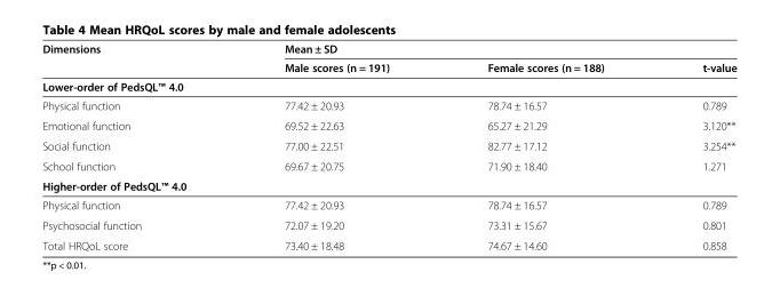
<table><thead><tr><td rowspan="2">Dimensions</td><td colspan="3">Mean ± SD</td></tr><tr><td>Male scores (n = 191)</td><td>Female scores (n = 188)</td><td>t-value</td></tr></thead><tbody><tr><td colspan="4">Lower-order of PedsQL™ 4.0</td></tr><tr><td>Physical function</td><td>77.42 ± 20.93</td><td>78.74 ± 16.57</td><td>0.789</td></tr><tr><td>Emotional function</td><td>69.52 ± 22.63</td><td>65.27 ± 21.29</td><td>3.120**</td></tr><tr><td>Social function</td><td>77.00 ± 22.51</td><td>82.77 ± 17.12</td><td>3.254**</td></tr><tr><td>School function</td><td>69.67 ± 20.75</td><td>71.90 ± 18.40</td><td>1.271</td></tr><tr><td colspan="4">Higher-order of PedsQL™ 4.0</td></tr><tr><td>Physical function</td><td>77.42 ± 20.93</td><td>78.74 ± 16.57</td><td>0.789</td></tr><tr><td>Psychosocial function</td><td>72.07 ± 19.20</td><td>73.31 ± 15.67</td><td>0.801</td></tr><tr><td>Total HRQoL score</td><td>73.40 ± 18.48</td><td>74.67 ± 14.60</td><td>0.858</td></tr></tbody></table>